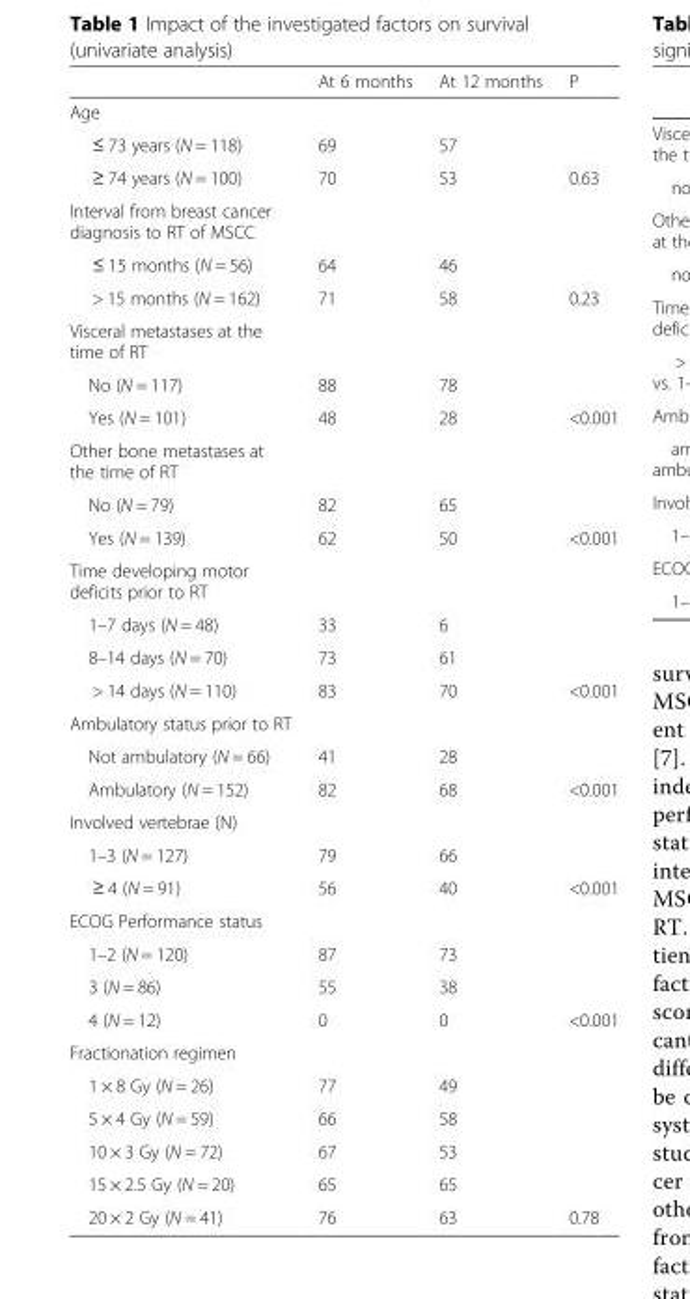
<table><thead><tr><td></td><td>At 6 months</td><td>At 12 months</td><td>P</td></tr></thead><tbody><tr><td colspan="4">Age</td></tr><tr><td>≤ 73 years (N = 118)</td><td>69</td><td>57</td><td></td></tr><tr><td>≥ 74 years (N = 100)</td><td>70</td><td>53</td><td>0.63</td></tr><tr><td colspan="4">Interval from breast cancer diagnosis to RT of MSCC</td></tr><tr><td>≤ 15 months (N = 56)</td><td>64</td><td>46</td><td></td></tr><tr><td>&gt; 15 months (N = 162)</td><td>71</td><td>58</td><td>0.23</td></tr><tr><td colspan="4">Visceral metastases at the time of RT</td></tr><tr><td>No (N = 117)</td><td>88</td><td>78</td><td></td></tr><tr><td>Yes (N = 101)</td><td>48</td><td>28</td><td>&lt;0.001</td></tr><tr><td colspan="4">Other bone metastases at the time of RT</td></tr><tr><td>No (N = 79)</td><td>82</td><td>65</td><td></td></tr><tr><td>Yes (N = 139)</td><td>62</td><td>50</td><td>&lt;0.001</td></tr><tr><td colspan="4">Time developing motor deficits prior to RT</td></tr><tr><td>1–7 days (N = 48)</td><td>33</td><td>6</td><td></td></tr><tr><td>8–14 days (N = 70)</td><td>73</td><td>61</td><td></td></tr><tr><td>&gt; 14 days (N = 110)</td><td>83</td><td>70</td><td>&lt;0.001</td></tr><tr><td colspan="4">Ambulatory status prior to RT</td></tr><tr><td>Not ambulatory (N = 66)</td><td>41</td><td>28</td><td></td></tr><tr><td>Ambulatory (N = 152)</td><td>82</td><td>68</td><td>&lt;0.001</td></tr><tr><td colspan="4">Involved vertebrae (N)</td></tr><tr><td>1–3 (N = 127)</td><td>79</td><td>66</td><td></td></tr><tr><td>≥ 4 (N = 91)</td><td>56</td><td>40</td><td>&lt;0.001</td></tr><tr><td colspan="4">ECOG Performance status</td></tr><tr><td>1–2 (N = 120)</td><td>87</td><td>73</td><td></td></tr><tr><td>3 (N = 86)</td><td>55</td><td>38</td><td></td></tr><tr><td>4 (N = 12)</td><td>0</td><td>0</td><td>&lt;0.001</td></tr><tr><td colspan="4">Fractionation regimen</td></tr><tr><td>1 × 8 Gy (N = 26)</td><td>77</td><td>49</td><td></td></tr><tr><td>5 × 4 Gy (N = 59)</td><td>66</td><td>58</td><td></td></tr><tr><td>10 × 3 Gy (N = 72)</td><td>67</td><td>53</td><td></td></tr><tr><td>15 × 2.5 Gy (N = 20)</td><td>65</td><td>65</td><td></td></tr><tr><td>20 × 2 Gy (N = 41)</td><td>76</td><td>63</td><td>0.78</td></tr></tbody></table>